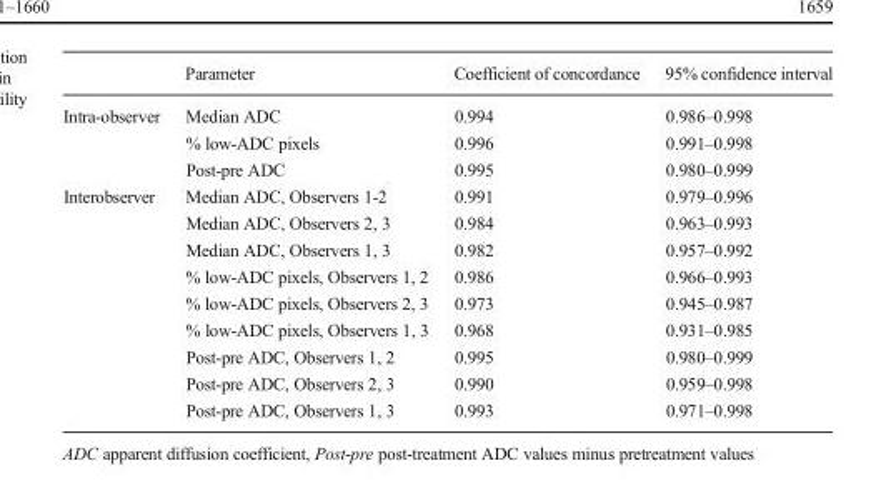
<table><thead><tr><td></td><td>Parameter</td><td>Coefficient of concordance</td><td>95% confidence interval</td></tr></thead><tbody><tr><td rowspan="3">Intra-observer</td><td>Median ADC</td><td>0.994</td><td>0.986–0.998</td></tr><tr><td>% low-ADC pixels</td><td>0.996</td><td>0.991–0.998</td></tr><tr><td>Post-pre ADC</td><td>0.995</td><td>0.980–0.999</td></tr><tr><td rowspan="9">Interobserver</td><td>Median ADC, Observers 1-2</td><td>0.991</td><td>0.979–0.996</td></tr><tr><td>Median ADC, Observers 2, 3</td><td>0.984</td><td>0.963–0.993</td></tr><tr><td>Median ADC, Observers 1, 3</td><td>0.982</td><td>0.957–0.992</td></tr><tr><td>% low-ADC pixels, Observers 1, 2</td><td>0.986</td><td>0.966–0.993</td></tr><tr><td>% low-ADC pixels, Observers 2, 3</td><td>0.973</td><td>0.945–0.987</td></tr><tr><td>% low-ADC pixels, Observers 1, 3</td><td>0.968</td><td>0.931–0.985</td></tr><tr><td>Post-pre ADC, Observers 1, 2</td><td>0.995</td><td>0.980–0.999</td></tr><tr><td>Post-pre ADC, Observers 2, 3</td><td>0.990</td><td>0.959–0.998</td></tr><tr><td>Post-pre ADC, Observers 1, 3</td><td>0.993</td><td>0.971–0.998</td></tr></tbody></table>